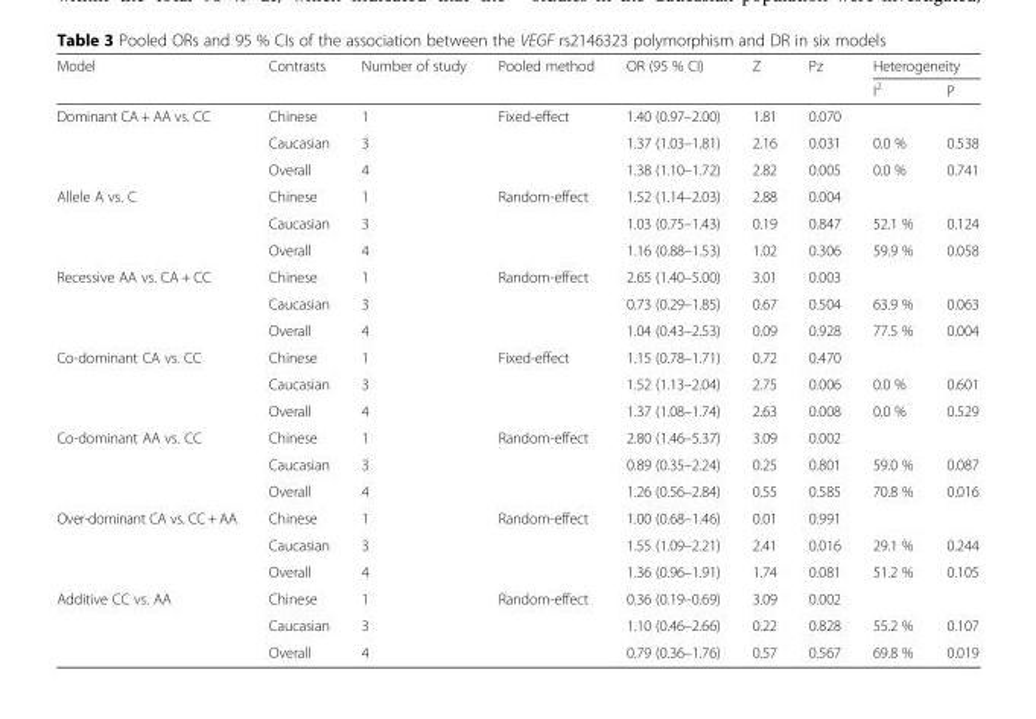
<table><thead><tr><td rowspan="2">Model</td><td rowspan="2">Contrasts</td><td rowspan="2">Number of study</td><td rowspan="2">Pooled method</td><td rowspan="2">OR (95 % CI)</td><td rowspan="2">Z</td><td rowspan="2">Pz</td><td colspan="2">Heterogeneity</td></tr><tr><td>I<sup>2</sup></td><td>P</td></tr></thead><tbody><tr><td rowspan="3">Dominant CA + AA vs. CC</td><td>Chinese</td><td>1</td><td rowspan="3">Fixed-effect</td><td>1.40 (0.97–2.00)</td><td>1.81</td><td>0.070</td><td></td><td></td></tr><tr><td>Caucasian</td><td>3</td><td>1.37 (1.03–1.81)</td><td>2.16</td><td>0.031</td><td>0.0 %</td><td>0.538</td></tr><tr><td>Overall</td><td>4</td><td>1.38 (1.10–1.72)</td><td>2.82</td><td>0.005</td><td>0.0 %</td><td>0.741</td></tr><tr><td rowspan="3">Allele A vs. C</td><td>Chinese</td><td>1</td><td rowspan="3">Random-effect</td><td>1.52 (1.14–2.03)</td><td>2.88</td><td>0.004</td><td></td><td></td></tr><tr><td>Caucasian</td><td>3</td><td>1.03 (0.75–1.43)</td><td>0.19</td><td>0.847</td><td>52.1 %</td><td>0.124</td></tr><tr><td>Overall</td><td>4</td><td>1.16 (0.88–1.53)</td><td>1.02</td><td>0.306</td><td>59.9 %</td><td>0.058</td></tr><tr><td rowspan="3">Recessive AA vs. CA + CC</td><td>Chinese</td><td>1</td><td rowspan="3">Random-effect</td><td>2.65 (1.40–5.00)</td><td>3.01</td><td>0.003</td><td></td><td></td></tr><tr><td>Caucasian</td><td>3</td><td>0.73 (0.29–1.85)</td><td>0.67</td><td>0.504</td><td>63.9 %</td><td>0.063</td></tr><tr><td>Overall</td><td>4</td><td>1.04 (0.43–2.53)</td><td>0.09</td><td>0.928</td><td>77.5 %</td><td>0.004</td></tr><tr><td rowspan="3">Co-dominant CA vs. CC</td><td>Chinese</td><td>1</td><td rowspan="3">Fixed-effect</td><td>1.15 (0.78–1.71)</td><td>0.72</td><td>0.470</td><td></td><td></td></tr><tr><td>Caucasian</td><td>3</td><td>1.52 (1.13–2.04)</td><td>2.75</td><td>0.006</td><td>0.0 %</td><td>0.601</td></tr><tr><td>Overall</td><td>4</td><td>1.37 (1.08–1.74)</td><td>2.63</td><td>0.008</td><td>0.0 %</td><td>0.529</td></tr><tr><td rowspan="3">Co-dominant AA vs. CC</td><td>Chinese</td><td>1</td><td rowspan="3">Random-effect</td><td>2.80 (1.46–5.37)</td><td>3.09</td><td>0.002</td><td></td><td></td></tr><tr><td>Caucasian</td><td>3</td><td>0.89 (0.35–2.24)</td><td>0.25</td><td>0.801</td><td>59.0 %</td><td>0.087</td></tr><tr><td>Overall</td><td>4</td><td>1.26 (0.56–2.84)</td><td>0.55</td><td>0.585</td><td>70.8 %</td><td>0.016</td></tr><tr><td rowspan="3">Over-dominant CA vs. CC + AA</td><td>Chinese</td><td>1</td><td rowspan="3">Random-effect</td><td>1.00 (0.68–1.46)</td><td>0.01</td><td>0.991</td><td></td><td></td></tr><tr><td>Caucasian</td><td>3</td><td>1.55 (1.09–2.21)</td><td>2.41</td><td>0.016</td><td>29.1 %</td><td>0.244</td></tr><tr><td>Overall</td><td>4</td><td>1.36 (0.96–1.91)</td><td>1.74</td><td>0.081</td><td>51.2 %</td><td>0.105</td></tr><tr><td rowspan="3">Additive CC vs. AA</td><td>Chinese</td><td>1</td><td rowspan="3">Random-effect</td><td>0.36 (0.19–0.69)</td><td>3.09</td><td>0.002</td><td></td><td></td></tr><tr><td>Caucasian</td><td>3</td><td>1.10 (0.46–2.66)</td><td>0.22</td><td>0.828</td><td>55.2 %</td><td>0.107</td></tr><tr><td>Overall</td><td>4</td><td>0.79 (0.36–1.76)</td><td>0.57</td><td>0.567</td><td>69.8 %</td><td>0.019</td></tr></tbody></table>